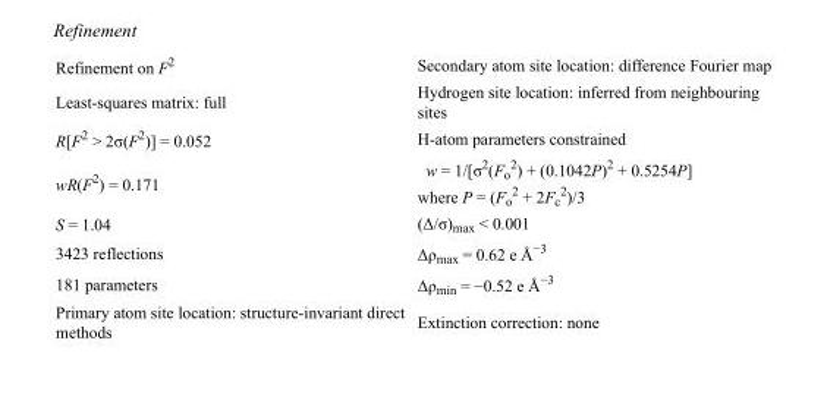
<table><tbody><tr><td>Refinement on F<sup>2</sup></td><td>Secondary atom site location: difference Fourier map</td></tr><tr><td>Least-squares matrix: full</td><td>Hydrogen site location: inferred from neighbouring sites</td></tr><tr><td>R[F<sup>2</sup> &gt; 2σ(F<sup>2</sup>)] = 0.052</td><td>H-atom parameters constrained</td></tr><tr><td>wR(F<sup>2</sup>) = 0.171</td><td>w = 1/[σ<sup>2</sup>(F<sub>o</sub> <sup>2</sup>) + (0.1042P)<sup>2</sup> + 0.5254P] where P = (F<sub>o</sub> <sup>2</sup> + 2F<sub>c</sub> <sup>2</sup>)/3</td></tr><tr><td>S = 1.04</td><td>(Δ/σ)<sub>max</sub> &lt; 0.001</td></tr><tr><td>3423 reflections</td><td>Δρ<sub>max</sub> = 0.62 e Å<sup>−3</sup></td></tr><tr><td>181 parameters</td><td>Δρ<sub>min</sub> = −0.52 e Å<sup>−3</sup></td></tr><tr><td>Primary atom site location: structure-invariant direct methods</td><td>Extinction correction: none</td></tr></tbody></table>